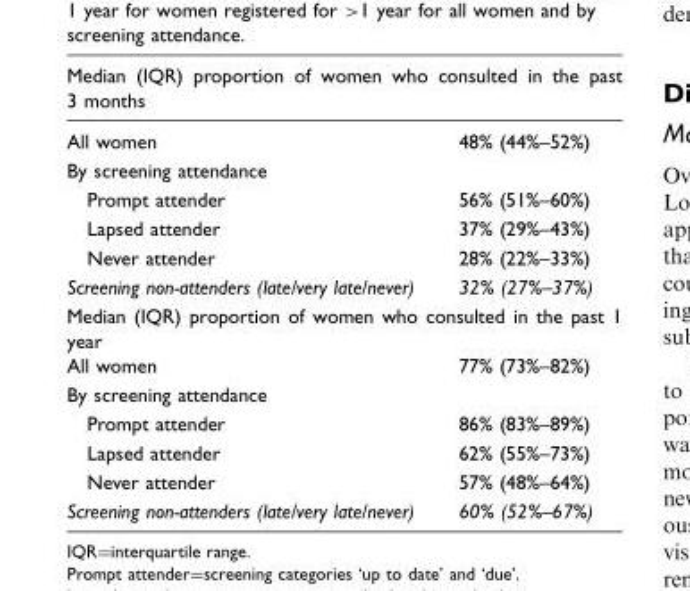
<table><thead><tr><td colspan="2">Median (IQR) proportion of women who consulted in the past 3 months</td></tr><tr><td>All women</td><td>48% (44%–52%)</td></tr></thead><tbody><tr><td colspan="2">By screening attendance</td></tr><tr><td>Prompt attender</td><td>56% (51%–60%)</td></tr><tr><td>Lapsed attender</td><td>37% (29%–43%)</td></tr><tr><td>Never attender</td><td>28% (22%–33%)</td></tr><tr><td>Screening non-attenders (late/very late/never)</td><td>32% (27%–37%)</td></tr><tr><td colspan="2">Median (IQR) proportion of women who consulted in the past 1 year</td></tr><tr><td>All women</td><td>77% (73%–82%)</td></tr><tr><td colspan="2">By screening attendance</td></tr><tr><td>Prompt attender</td><td>86% (83%–89%)</td></tr><tr><td>Lapsed attender</td><td>62% (55%–73%)</td></tr><tr><td>Never attender</td><td>57% (48%–64%)</td></tr><tr><td>Screening non-attenders (late/very late/never)</td><td>60% (52%–67%)</td></tr></tbody></table>